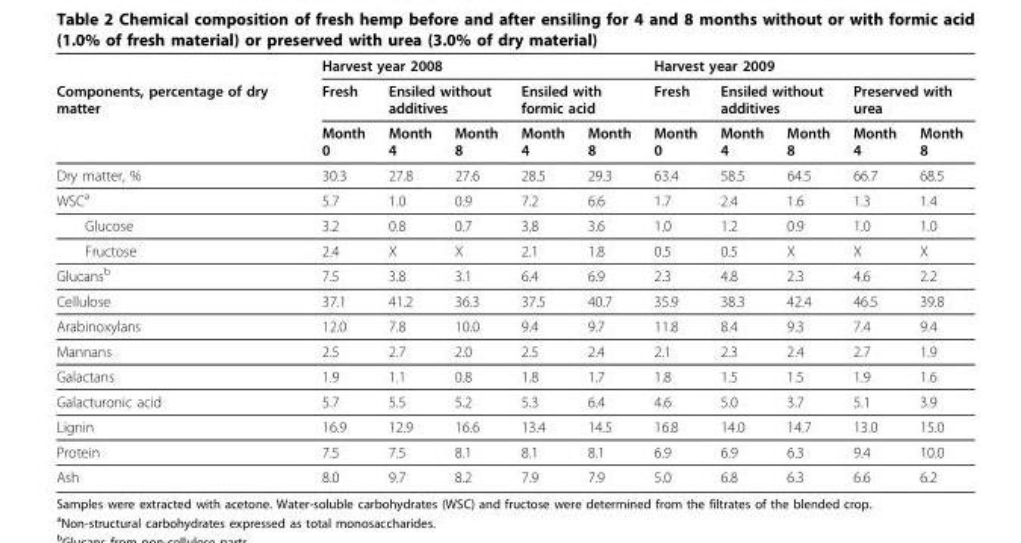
<table><thead><tr><td rowspan="3">Components, percentage of dry matter</td><td colspan="5">Harvest year 2008</td><td colspan="5">Harvest year 2009</td></tr><tr><td rowspan="2">Fresh Month 0</td><td colspan="2">Ensiled without additives</td><td colspan="2">Ensiled with formic acid</td><td rowspan="2">Fresh Month 0</td><td colspan="2">Ensiled without additives</td><td colspan="2">Preserved with urea</td></tr><tr><td>Month 4</td><td>Month 8</td><td>Month 4</td><td>Month 8</td><td>Month 4</td><td>Month 8</td><td>Month 4</td><td>Month 8</td></tr></thead><tbody><tr><td>Dry matter, %</td><td>30.3</td><td>27.8</td><td>27.6</td><td>28.5</td><td>29.3</td><td>63.4</td><td>58.5</td><td>64.5</td><td>66.7</td><td>68.5</td></tr><tr><td>WSC<sup>a</sup></td><td>5.7</td><td>1.0</td><td>0.9</td><td>7.2</td><td>6.6</td><td>1.7</td><td>2.4</td><td>1.6</td><td>1.3</td><td>1.4</td></tr><tr><td>Glucose</td><td>3.2</td><td>0.8</td><td>0.7</td><td>3.8</td><td>3.6</td><td>1.0</td><td>1.2</td><td>0.9</td><td>1.0</td><td>1.0</td></tr><tr><td>Fructose</td><td>2.4</td><td>X</td><td>X</td><td>2.1</td><td>1.8</td><td>0.5</td><td>0.5</td><td>X</td><td>X</td><td>X</td></tr><tr><td>Glucans<sup>b</sup></td><td>7.5</td><td>3.8</td><td>3.1</td><td>6.4</td><td>6.9</td><td>2.3</td><td>4.8</td><td>2.3</td><td>4.6</td><td>2.2</td></tr><tr><td>Cellulose</td><td>37.1</td><td>41.2</td><td>36.3</td><td>37.5</td><td>40.7</td><td>35.9</td><td>38.3</td><td>42.4</td><td>46.5</td><td>39.8</td></tr><tr><td>Arabinoxylans</td><td>12.0</td><td>7.8</td><td>10.0</td><td>9.4</td><td>9.7</td><td>11.8</td><td>8.4</td><td>9.3</td><td>7.4</td><td>9.4</td></tr><tr><td>Mannans</td><td>2.5</td><td>2.7</td><td>2.0</td><td>2.5</td><td>2.4</td><td>2.1</td><td>2.3</td><td>2.4</td><td>2.7</td><td>1.9</td></tr><tr><td>Galactans</td><td>1.9</td><td>1.1</td><td>0.8</td><td>1.8</td><td>1.7</td><td>1.8</td><td>1.5</td><td>1.5</td><td>1.9</td><td>1.6</td></tr><tr><td>Galacturonic acid</td><td>5.7</td><td>5.5</td><td>5.2</td><td>5.3</td><td>6.4</td><td>4.6</td><td>5.0</td><td>3.7</td><td>5.1</td><td>3.9</td></tr><tr><td>Lignin</td><td>16.9</td><td>12.9</td><td>16.6</td><td>13.4</td><td>14.5</td><td>16.8</td><td>14.0</td><td>14.7</td><td>13.0</td><td>15.0</td></tr><tr><td>Protein</td><td>7.5</td><td>7.5</td><td>8.1</td><td>8.1</td><td>8.1</td><td>6.9</td><td>6.9</td><td>6.3</td><td>9.4</td><td>10.0</td></tr><tr><td>Ash</td><td>8.0</td><td>9.7</td><td>8.2</td><td>7.9</td><td>7.9</td><td>5.0</td><td>6.8</td><td>6.3</td><td>6.6</td><td>6.2</td></tr></tbody></table>